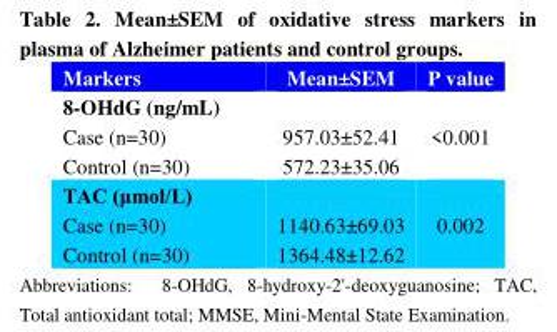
<table><thead><tr><td>Markers</td><td>Mean±SEM</td><td>P value</td></tr></thead><tbody><tr><td colspan="3">8-OHdG (ng/mL)</td></tr><tr><td>Case (n=30) Control (n=30)</td><td>957.03±52.41 572.23±35.06</td><td>&lt;0.001</td></tr><tr><td colspan="3">TAC (μmol/L)</td></tr><tr><td>Case (n=30) Control (n=30)</td><td>1140.63±69.03 1364.48±12.62</td><td>0.002</td></tr></tbody></table>